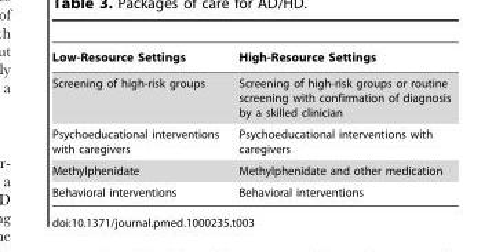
<table><thead><tr><td>Low-Resource Settings</td><td>High-Resource Settings</td></tr></thead><tbody><tr><td>Screening of high-risk groups</td><td>Screening of high-risk groups or routine screening with confirmation of diagnosis by a skilled clinician</td></tr><tr><td>Psychoeducational interventions with caregivers</td><td>Psychoeducational interventions with caregivers</td></tr><tr><td>Methylphenidate</td><td>Methylphenidate and other medication</td></tr><tr><td>Behavioral interventions</td><td>Behavioral interventions</td></tr></tbody></table>